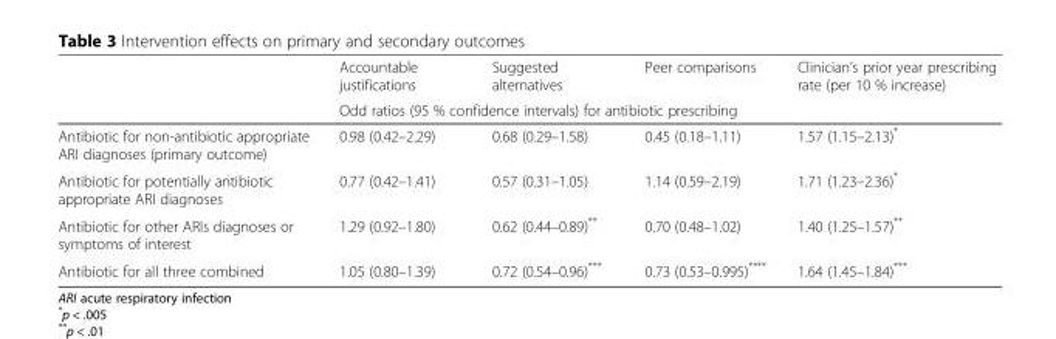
<table><thead><tr><td rowspan="2"></td><td>Accountable justifications</td><td>Suggested alternatives</td><td>Peer comparisons</td><td>Clinician’s prior year prescribing rate (per 10 % increase)</td></tr><tr><td colspan="4">Odd ratios (95 % confidence intervals) for antibiotic prescribing</td></tr></thead><tbody><tr><td>Antibiotic for non-antibiotic appropriate ARI diagnoses (primary outcome)</td><td>0.98 (0.42–2.29)</td><td>0.68 (0.29–1.58)</td><td>0.45 (0.18–1.11)</td><td>1.57 (1.15–2.13)*</td></tr><tr><td>Antibiotic for potentially antibiotic appropriate ARI diagnoses</td><td>0.77 (0.42–1.41)</td><td>0.57 (0.31–1.05)</td><td>1.14 (0.59–2.19)</td><td>1.71 (1.23–2.36)*</td></tr><tr><td>Antibiotic for other ARIs diagnoses or symptoms of interest</td><td>1.29 (0.92–1.80)</td><td>0.62 (0.44–0.89)**</td><td>0.70 (0.48–1.02)</td><td>1.40 (1.25–1.57)**</td></tr><tr><td>Antibiotic for all three combined</td><td>1.05 (0.80–1.39)</td><td>0.72 (0.54–0.96)***</td><td>0.73 (0.53–0.995)****</td><td>1.64 (1.45–1.84)***</td></tr></tbody></table>